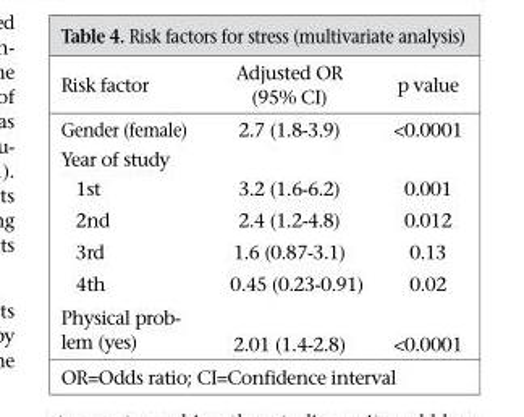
<table><thead><tr><td>Risk factor</td><td>Adjusted OR (95% CI)</td><td>p value</td></tr></thead><tbody><tr><td>Gender (female)</td><td>2.7 (1.8-3.9)</td><td>&lt;0.0001</td></tr><tr><td colspan="3">Year of study</td></tr><tr><td>1st</td><td>3.2 (1.6-6.2)</td><td>0.001</td></tr><tr><td>2nd</td><td>2.4 (1.2-4.8)</td><td>0.012</td></tr><tr><td>3rd</td><td>1.6 (0.87-3.1)</td><td>0.13</td></tr><tr><td>4th</td><td>0.45 (0.23-0.91)</td><td>0.02</td></tr><tr><td>Physical prob- lem (yes)</td><td>2.01 (1.4-2.8)</td><td>&lt;0.0001</td></tr></tbody></table>